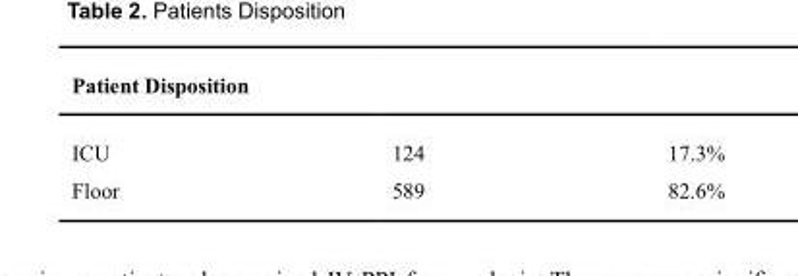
<table><thead><tr><td colspan="3">Patient Disposition</td></tr><tr><td>ICU</td><td>124</td><td>17.3%</td></tr></thead><tbody><tr><td>Floor</td><td>589</td><td>82.6%</td></tr></tbody></table>